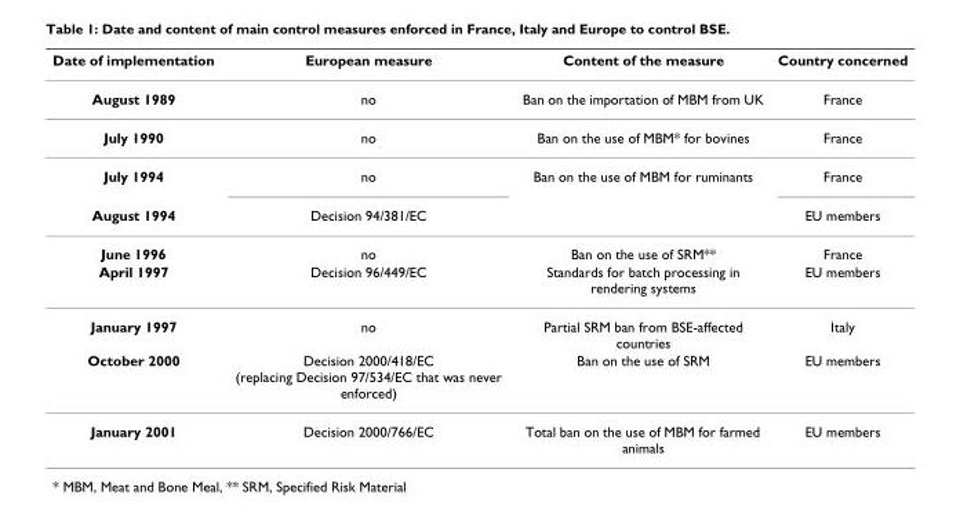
<table><thead><tr><td>Date of implementation</td><td>European measure</td><td>Content of the measure</td><td>Country concerned</td></tr></thead><tbody><tr><td>August 1989</td><td>no</td><td>Ban on the importation of MBM from UK</td><td>France</td></tr><tr><td>July 1990</td><td>no</td><td>Ban on the use of MBM* for bovines</td><td>France</td></tr><tr><td>July 1994</td><td>no</td><td>Ban on the use of MBM for ruminants</td><td>France</td></tr><tr><td>August 1994</td><td>Decision 94/381/EC</td><td></td><td>EU members</td></tr><tr><td>June 1996</td><td>no</td><td>Ban on the use of SRM**</td><td>France</td></tr><tr><td>April 1997</td><td>Decision 96/449/EC</td><td>Standards for batch processing in rendering systems</td><td>EU members</td></tr><tr><td>January 1997</td><td>no</td><td>Partial SRM ban from BSE-affected countries</td><td>Italy</td></tr><tr><td>October 2000</td><td>Decision 2000/418/EC (replacing Decision 97/534/EC that was never enforced)</td><td>Ban on the use of SRM</td><td>EU members</td></tr><tr><td>January 2001</td><td>Decision 2000/766/EC</td><td>Total ban on the use of MBM for farmed animals</td><td>EU members</td></tr></tbody></table>